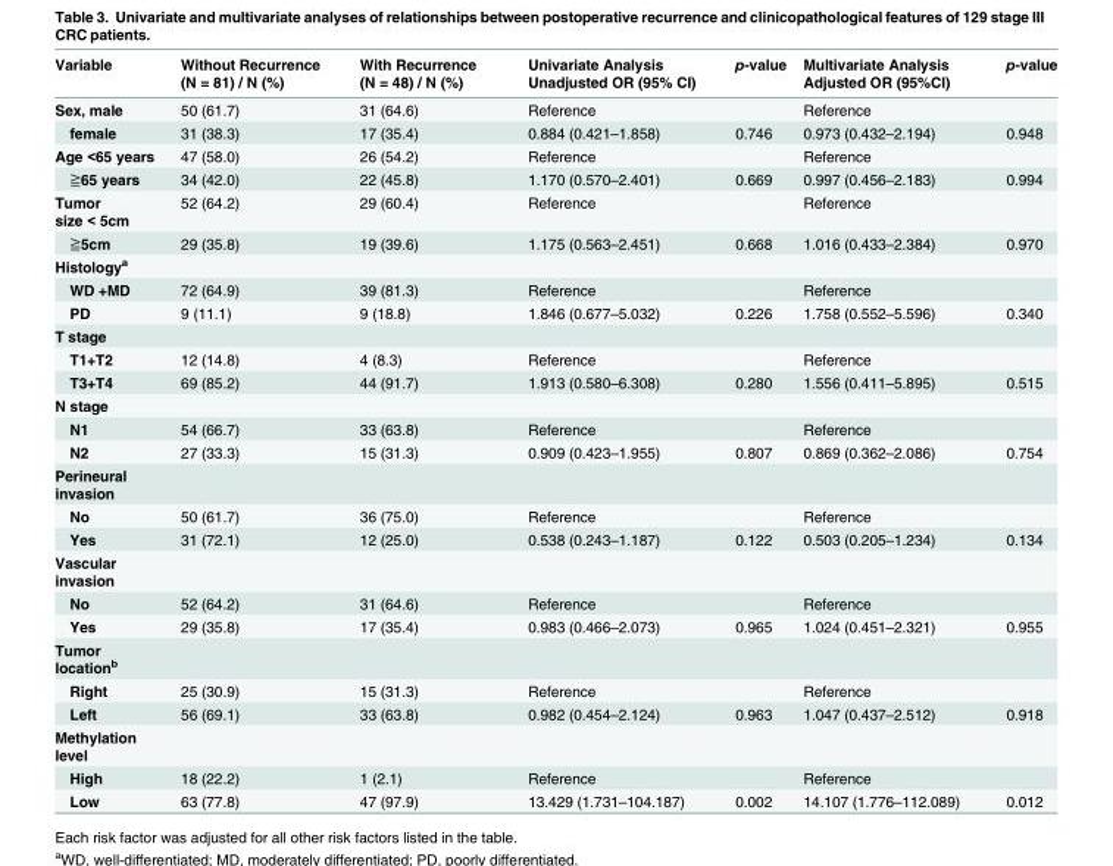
<table><thead><tr><td>Variable</td><td>Without Recurrence (N = 81) / N (%)</td><td>With Recurrence (N = 48) / N (%)</td><td>Univariate Analysis Unadjusted OR (95% CI)</td><td>p-value</td><td>Multivariate Analysis Adjusted OR (95%CI)</td><td>p-value</td></tr></thead><tbody><tr><td>Sex, male</td><td>50 (61.7)</td><td>31 (64.6)</td><td>Reference</td><td></td><td>Reference</td><td></td></tr><tr><td>female</td><td>31 (38.3)</td><td>17 (35.4)</td><td>0.884 (0.421–1.858)</td><td>0.746</td><td>0.973 (0.432–2.194)</td><td>0.948</td></tr><tr><td>Age &lt;65 years</td><td>47 (58.0)</td><td>26 (54.2)</td><td>Reference</td><td></td><td>Reference</td><td></td></tr><tr><td>≧65 years</td><td>34 (42.0)</td><td>22 (45.8)</td><td>1.170 (0.570–2.401)</td><td>0.669</td><td>0.997 (0.456–2.183)</td><td>0.994</td></tr><tr><td>Tumor size &lt; 5cm</td><td>52 (64.2)</td><td>29 (60.4)</td><td>Reference</td><td></td><td>Reference</td><td></td></tr><tr><td>≧5cm</td><td>29 (35.8)</td><td>19 (39.6)</td><td>1.175 (0.563–2.451)</td><td>0.668</td><td>1.016 (0.433–2.384)</td><td>0.970</td></tr><tr><td colspan="7">Histology<sup>a</sup></td></tr><tr><td>WD +MD</td><td>72 (64.9)</td><td>39 (81.3)</td><td>Reference</td><td></td><td>Reference</td><td></td></tr><tr><td>PD</td><td>9 (11.1)</td><td>9 (18.8)</td><td>1.846 (0.677–5.032)</td><td>0.226</td><td>1.758 (0.552–5.596)</td><td>0.340</td></tr><tr><td colspan="7">T stage</td></tr><tr><td>T1+T2</td><td>12 (14.8)</td><td>4 (8.3)</td><td>Reference</td><td></td><td>Reference</td><td></td></tr><tr><td>T3+T4</td><td>69 (85.2)</td><td>44 (91.7)</td><td>1.913 (0.580–6.308)</td><td>0.280</td><td>1.556 (0.411–5.895)</td><td>0.515</td></tr><tr><td colspan="7">N stage</td></tr><tr><td>N1</td><td>54 (66.7)</td><td>33 (63.8)</td><td>Reference</td><td></td><td>Reference</td><td></td></tr><tr><td>N2</td><td>27 (33.3)</td><td>15 (31.3)</td><td>0.909 (0.423–1.955)</td><td>0.807</td><td>0.869 (0.362–2.086)</td><td>0.754</td></tr><tr><td colspan="7">Perineural invasion</td></tr><tr><td>No</td><td>50 (61.7)</td><td>36 (75.0)</td><td>Reference</td><td></td><td>Reference</td><td></td></tr><tr><td>Yes</td><td>31 (72.1)</td><td>12 (25.0)</td><td>0.538 (0.243–1.187)</td><td>0.122</td><td>0.503 (0.205–1.234)</td><td>0.134</td></tr><tr><td colspan="7">Vascular invasion</td></tr><tr><td>No</td><td>52 (64.2)</td><td>31 (64.6)</td><td>Reference</td><td></td><td>Reference</td><td></td></tr><tr><td>Yes</td><td>29 (35.8)</td><td>17 (35.4)</td><td>0.983 (0.466–2.073)</td><td>0.965</td><td>1.024 (0.451–2.321)</td><td>0.955</td></tr><tr><td colspan="7">Tumor location<sup>b</sup></td></tr><tr><td>Right</td><td>25 (30.9)</td><td>15 (31.3)</td><td>Reference</td><td></td><td>Reference</td><td></td></tr><tr><td>Left</td><td>56 (69.1)</td><td>33 (63.8)</td><td>0.982 (0.454–2.124)</td><td>0.963</td><td>1.047 (0.437–2.512)</td><td>0.918</td></tr><tr><td colspan="7">Methylation level</td></tr><tr><td>High</td><td>18 (22.2)</td><td>1 (2.1)</td><td>Reference</td><td></td><td>Reference</td><td></td></tr><tr><td>Low</td><td>63 (77.8)</td><td>47 (97.9)</td><td>13.429 (1.731–104.187)</td><td>0.002</td><td>14.107 (1.776–112.089)</td><td>0.012</td></tr></tbody></table>